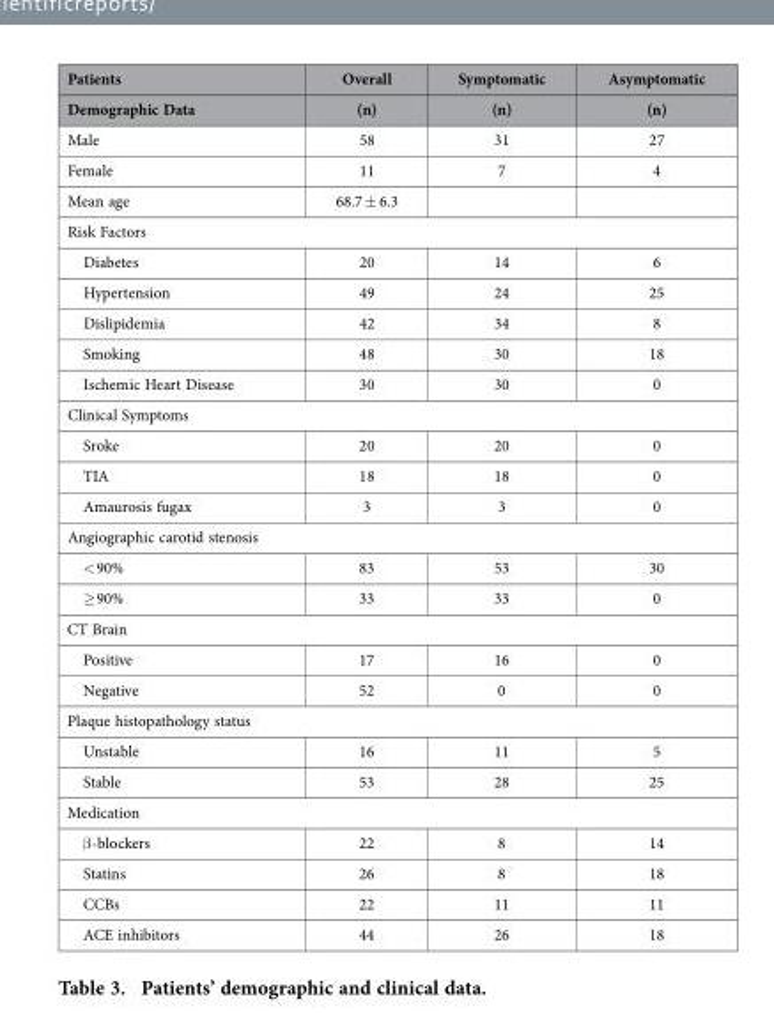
<table><thead><tr><td rowspan="2">Patients Demographic Data</td><td rowspan="2">Overall (n)</td><td rowspan="2">Symptomatic (n)</td><td rowspan="2">Asymptomatic (n)</td></tr><tr></tr></thead><tbody><tr><td>Male</td><td>58</td><td>31</td><td>27</td></tr><tr><td>Female</td><td>11</td><td>7</td><td>4</td></tr><tr><td>Mean age</td><td>68.7 ± 6.3</td><td></td><td></td></tr><tr><td colspan="4">Risk Factors</td></tr><tr><td>Diabetes</td><td>20</td><td>14</td><td>6</td></tr><tr><td>Hypertension</td><td>49</td><td>24</td><td>25</td></tr><tr><td>Dislipidemia</td><td>42</td><td>34</td><td>8</td></tr><tr><td>Smoking</td><td>48</td><td>30</td><td>18</td></tr><tr><td>Ischemic Heart Disease</td><td>30</td><td>30</td><td>0</td></tr><tr><td colspan="4">Clinical Symptoms</td></tr><tr><td>Sroke</td><td>20</td><td>20</td><td>0</td></tr><tr><td>TIA</td><td>18</td><td>18</td><td>0</td></tr><tr><td>Amaurosis fugax</td><td>3</td><td>3</td><td>0</td></tr><tr><td colspan="4">Angiographic carotid stenosis</td></tr><tr><td>&lt; 90%</td><td>83</td><td>53</td><td>30</td></tr><tr><td>≥ 90%</td><td>33</td><td>33</td><td>0</td></tr><tr><td colspan="4">CT Brain</td></tr><tr><td>Positive</td><td>17</td><td>16</td><td>0</td></tr><tr><td>Negative</td><td>52</td><td>0</td><td>0</td></tr><tr><td colspan="4">Plaque histopathology status</td></tr><tr><td>Unstable</td><td>16</td><td>11</td><td>5</td></tr><tr><td>Stable</td><td>53</td><td>28</td><td>25</td></tr><tr><td colspan="4">Medication</td></tr><tr><td>β -blockers</td><td>22</td><td>8</td><td>14</td></tr><tr><td>Statins</td><td>26</td><td>8</td><td>18</td></tr><tr><td>CCBs</td><td>22</td><td>11</td><td>11</td></tr><tr><td>ACE inhibitors</td><td>44</td><td>26</td><td>18</td></tr></tbody></table>